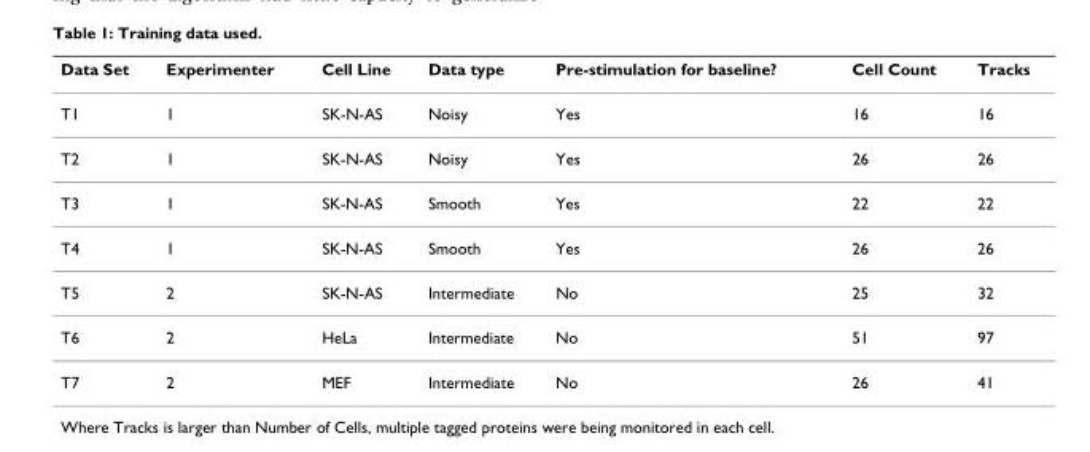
<table><thead><tr><td>Data Set</td><td>Experimenter</td><td>Cell Line</td><td>Data type</td><td>Pre-stimulation for baseline?</td><td>Cell Count</td><td>Tracks</td></tr></thead><tbody><tr><td>T1</td><td>1</td><td>SK-N-AS</td><td>Noisy</td><td>Yes</td><td>16</td><td>16</td></tr><tr><td>T2</td><td>1</td><td>SK-N-AS</td><td>Noisy</td><td>Yes</td><td>26</td><td>26</td></tr><tr><td>T3</td><td>1</td><td>SK-N-AS</td><td>Smooth</td><td>Yes</td><td>22</td><td>22</td></tr><tr><td>T4</td><td>1</td><td>SK-N-AS</td><td>Smooth</td><td>Yes</td><td>26</td><td>26</td></tr><tr><td>T5</td><td>2</td><td>SK-N-AS</td><td>Intermediate</td><td>No</td><td>25</td><td>32</td></tr><tr><td>T6</td><td>2</td><td>HeLa</td><td>Intermediate</td><td>No</td><td>51</td><td>97</td></tr><tr><td>T7</td><td>2</td><td>MEF</td><td>Intermediate</td><td>No</td><td>26</td><td>41</td></tr></tbody></table>